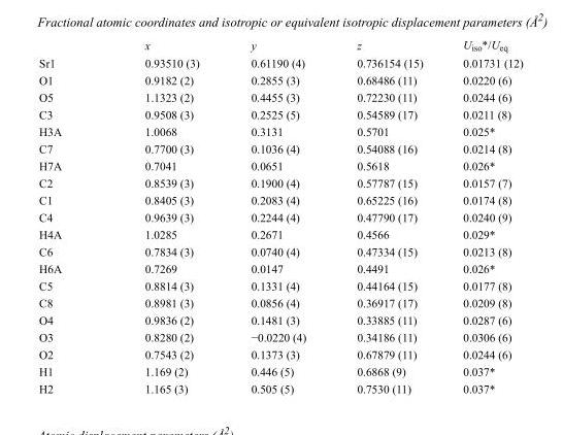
<table><thead><tr><td></td><td>x</td><td>y</td><td>z</td><td>U<sub>iso</sub>*/U<sub>eq</sub></td></tr></thead><tbody><tr><td>Sr1</td><td>0.93510 (3)</td><td>0.61190 (4)</td><td>0.736154 (15)</td><td>0.01731 (12)</td></tr><tr><td>O1</td><td>0.9182 (2)</td><td>0.2855 (3)</td><td>0.68486 (11)</td><td>0.0220 (6)</td></tr><tr><td>O5</td><td>1.1323 (2)</td><td>0.4455 (3)</td><td>0.72230 (11)</td><td>0.0244 (6)</td></tr><tr><td>C3</td><td>0.9508 (3)</td><td>0.2525 (5)</td><td>0.54589 (17)</td><td>0.0211 (8)</td></tr><tr><td>H3A</td><td>1.0068</td><td>0.3131</td><td>0.5701</td><td>0.025*</td></tr><tr><td>C7</td><td>0.7700 (3)</td><td>0.1036 (4)</td><td>0.54088 (16)</td><td>0.0214 (8)</td></tr><tr><td>H7A</td><td>0.7041</td><td>0.0651</td><td>0.5618</td><td>0.026*</td></tr><tr><td>C2</td><td>0.8539 (3)</td><td>0.1900 (4)</td><td>0.57787 (15)</td><td>0.0157 (7)</td></tr><tr><td>C1</td><td>0.8405 (3)</td><td>0.2083 (4)</td><td>0.65225 (16)</td><td>0.0174 (8)</td></tr><tr><td>C4</td><td>0.9639 (3)</td><td>0.2244 (4)</td><td>0.47790 (17)</td><td>0.0240 (9)</td></tr><tr><td>H4A</td><td>1.0285</td><td>0.2671</td><td>0.4566</td><td>0.029*</td></tr><tr><td>C6</td><td>0.7834 (3)</td><td>0.0740 (4)</td><td>0.47334 (15)</td><td>0.0213 (8)</td></tr><tr><td>H6A</td><td>0.7269</td><td>0.0147</td><td>0.4491</td><td>0.026*</td></tr><tr><td>C5</td><td>0.8814 (3)</td><td>0.1331 (4)</td><td>0.44164 (15)</td><td>0.0177 (8)</td></tr><tr><td>C8</td><td>0.8981 (3)</td><td>0.0856 (4)</td><td>0.36917 (17)</td><td>0.0209 (8)</td></tr><tr><td>O4</td><td>0.9836 (2)</td><td>0.1481 (3)</td><td>0.33885 (11)</td><td>0.0287 (6)</td></tr><tr><td>O3</td><td>0.8280 (2)</td><td>−0.0220 (4)</td><td>0.34186 (11)</td><td>0.0306 (6)</td></tr><tr><td>O2</td><td>0.7543 (2)</td><td>0.1373 (3)</td><td>0.67879 (11)</td><td>0.0244 (6)</td></tr><tr><td>H1</td><td>1.169 (2)</td><td>0.446 (5)</td><td>0.6868 (9)</td><td>0.037*</td></tr><tr><td>H2</td><td>1.165 (3)</td><td>0.505 (5)</td><td>0.7530 (11)</td><td>0.037*</td></tr></tbody></table>